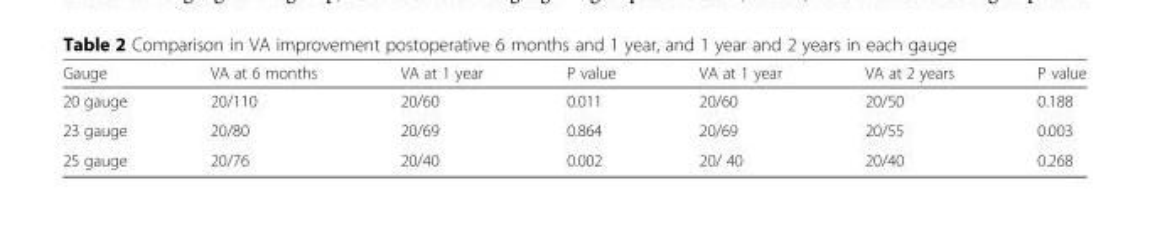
<table><thead><tr><td>Gauge</td><td>VA at 6 months</td><td>VA at 1 year</td><td>P value</td><td>VA at 1 year</td><td>VA at 2 years</td><td>P value</td></tr></thead><tbody><tr><td>20 gauge</td><td>20/110</td><td>20/60</td><td>0.011</td><td>20/60</td><td>20/50</td><td>0.188</td></tr><tr><td>23 gauge</td><td>20/80</td><td>20/69</td><td>0.864</td><td>20/69</td><td>20/55</td><td>0.003</td></tr><tr><td>25 gauge</td><td>20/76</td><td>20/40</td><td>0.002</td><td>20/ 40</td><td>20/40</td><td>0.268</td></tr></tbody></table>